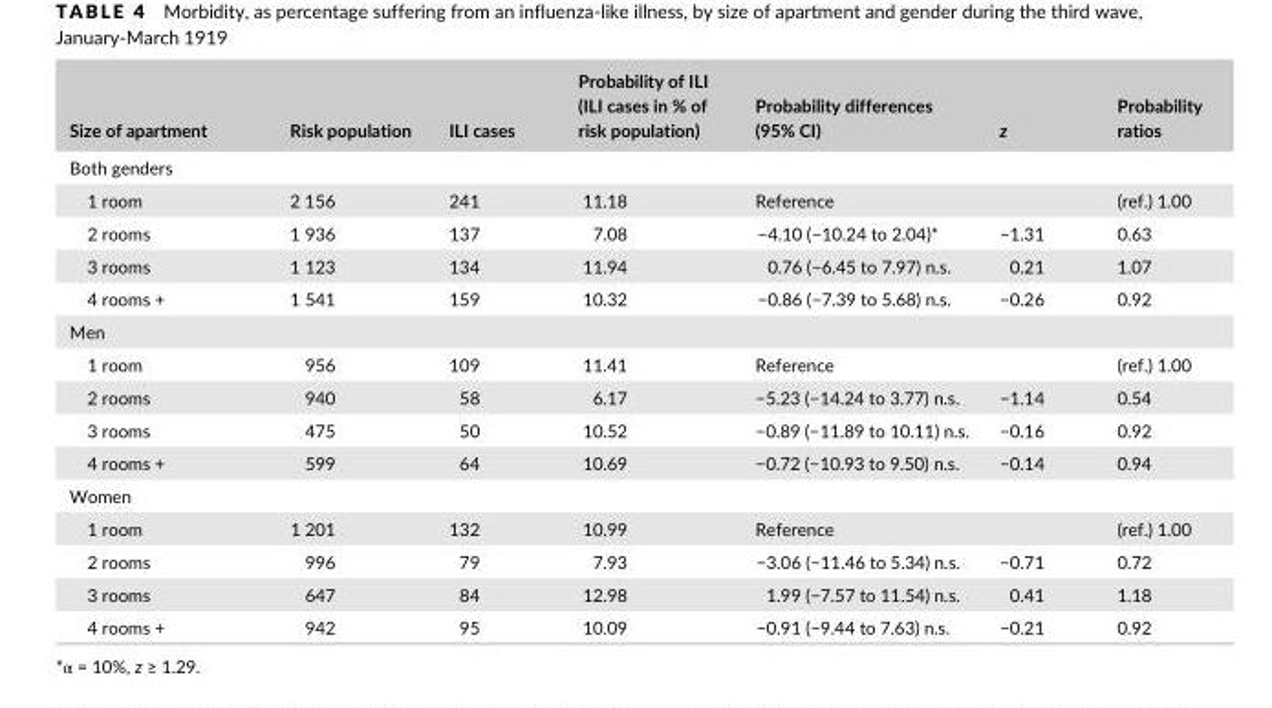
<table><thead><tr><td>Size of apartment</td><td>Risk population</td><td>ILI cases</td><td>Probability of ILI (ILI cases in % of risk population)</td><td>Probability differences (95% CI)</td><td>z</td><td>Probability ratios</td></tr></thead><tbody><tr><td colspan="7">Both genders</td></tr><tr><td>1 room</td><td>2 156</td><td>241</td><td>11.18</td><td>Reference</td><td></td><td>(ref.) 1.00</td></tr><tr><td>2 rooms</td><td>1 936</td><td>137</td><td>7.08</td><td>−4.10 (−10.24 to 2.04)*</td><td>−1.31</td><td>0.63</td></tr><tr><td>3 rooms</td><td>1 123</td><td>134</td><td>11.94</td><td>0.76 (−6.45 to 7.97) n.s.</td><td>0.21</td><td>1.07</td></tr><tr><td>4 rooms +</td><td>1 541</td><td>159</td><td>10.32</td><td>−0.86 (−7.39 to 5.68) n.s.</td><td>−0.26</td><td>0.92</td></tr><tr><td colspan="7">Men</td></tr><tr><td>1 room</td><td>956</td><td>109</td><td>11.41</td><td>Reference</td><td></td><td>(ref.) 1.00</td></tr><tr><td>2 rooms</td><td>940</td><td>58</td><td>6.17</td><td>−5.23 (−14.24 to 3.77) n.s.</td><td>−1.14</td><td>0.54</td></tr><tr><td>3 rooms</td><td>475</td><td>50</td><td>10.52</td><td>−0.89 (−11.89 to 10.11) n.s.</td><td>−0.16</td><td>0.92</td></tr><tr><td>4 rooms +</td><td>599</td><td>64</td><td>10.69</td><td>−0.72 (−10.93 to 9.50) n.s.</td><td>−0.14</td><td>0.94</td></tr><tr><td colspan="7">Women</td></tr><tr><td>1 room</td><td>1 201</td><td>132</td><td>10.99</td><td>Reference</td><td></td><td>(ref.) 1.00</td></tr><tr><td>2 rooms</td><td>996</td><td>79</td><td>7.93</td><td>−3.06 (−11.46 to 5.34) n.s.</td><td>−0.71</td><td>0.72</td></tr><tr><td>3 rooms</td><td>647</td><td>84</td><td>12.98</td><td>1.99 (−7.57 to 11.54) n.s.</td><td>0.41</td><td>1.18</td></tr><tr><td>4 rooms +</td><td>942</td><td>95</td><td>10.09</td><td>−0.91 (−9.44 to 7.63) n.s.</td><td>−0.21</td><td>0.92</td></tr></tbody></table>